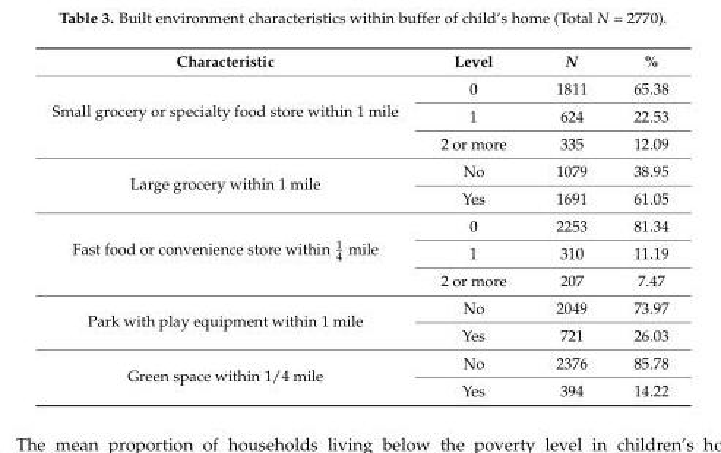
<table><thead><tr><td>Characteristic</td><td>Level</td><td>N</td><td>%</td></tr></thead><tbody><tr><td rowspan="3">Small grocery or specialty food store within 1 mile</td><td>0</td><td>1811</td><td>65.38</td></tr><tr><td>1</td><td>624</td><td>22.53</td></tr><tr><td>2 or more</td><td>335</td><td>12.09</td></tr><tr><td rowspan="2">Large grocery within 1 mile</td><td>No</td><td>1079</td><td>38.95</td></tr><tr><td>Yes</td><td>1691</td><td>61.05</td></tr><tr><td rowspan="3">Fast food or convenience store within 1 4 mile</td><td>0</td><td>2253</td><td>81.34</td></tr><tr><td>1</td><td>310</td><td>11.19</td></tr><tr><td>2 or more</td><td>207</td><td>7.47</td></tr><tr><td rowspan="2">Park with play equipment within 1 mile</td><td>No</td><td>2049</td><td>73.97</td></tr><tr><td>Yes</td><td>721</td><td>26.03</td></tr><tr><td rowspan="2">Green space within 1/4 mile</td><td>No</td><td>2376</td><td>85.78</td></tr><tr><td>Yes</td><td>394</td><td>14.22</td></tr></tbody></table>